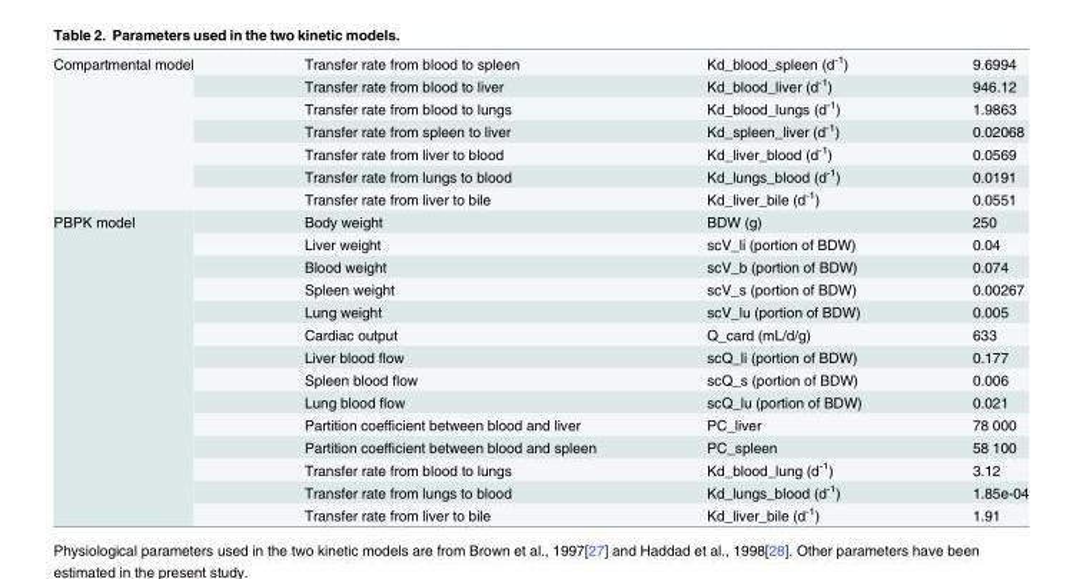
<table><tbody><tr><td rowspan="7">Compartmental model</td><td>Transfer rate from blood to spleen</td><td>Kd_blood_spleen (d<sup>-1</sup>)</td><td>9.6994</td></tr><tr><td>Transfer rate from blood to liver</td><td>Kd_blood_liver (d<sup>-1</sup>)</td><td>946.12</td></tr><tr><td>Transfer rate from blood to lungs</td><td>Kd_blood_lungs (d<sup>-1</sup>)</td><td>1.9863</td></tr><tr><td>Transfer rate from spleen to liver</td><td>Kd_spleen_liver (d<sup>-1</sup>)</td><td>0.02068</td></tr><tr><td>Transfer rate from liver to blood</td><td>Kd_liver_blood (d<sup>-1</sup>)</td><td>0.0569</td></tr><tr><td>Transfer rate from lungs to blood</td><td>Kd_lungs_blood (d<sup>-1</sup>)</td><td>0.0191</td></tr><tr><td>Transfer rate from liver to bile</td><td>Kd_liver_bile (d<sup>-1</sup>)</td><td>0.0551</td></tr><tr><td rowspan="14">PBPK model</td><td>Body weight</td><td>BDW (g)</td><td>250</td></tr><tr><td>Liver weight</td><td>scV_li (portion of BDW)</td><td>0.04</td></tr><tr><td>Blood weight</td><td>scV_b (portion of BDW)</td><td>0.074</td></tr><tr><td>Spleen weight</td><td>scV_s (portion of BDW)</td><td>0.00267</td></tr><tr><td>Lung weight</td><td>scV_lu (portion of BDW)</td><td>0.005</td></tr><tr><td>Cardiac output</td><td>Q_card (mL/d/g)</td><td>633</td></tr><tr><td>Liver blood flow</td><td>scQ_li (portion of BDW)</td><td>0.177</td></tr><tr><td>Spleen blood flow</td><td>scQ_s (portion of BDW)</td><td>0.006</td></tr><tr><td>Lung blood flow</td><td>scQ_lu (portion of BDW)</td><td>0.021</td></tr><tr><td>Partition coefficient between blood and liver</td><td>PC_liver</td><td>78 000</td></tr><tr><td>Partition coefficient between blood and spleen</td><td>PC_spleen</td><td>58 100</td></tr><tr><td>Transfer rate from blood to lungs</td><td>Kd_blood_lung (d<sup>-1</sup>)</td><td>3.12</td></tr><tr><td>Transfer rate from lungs to blood</td><td>Kd_lungs_blood (d<sup>-1</sup>)</td><td>1.85e-04</td></tr><tr><td>Transfer rate from liver to bile</td><td>Kd_liver_bile (d<sup>-1</sup>)</td><td>1.91</td></tr></tbody></table>